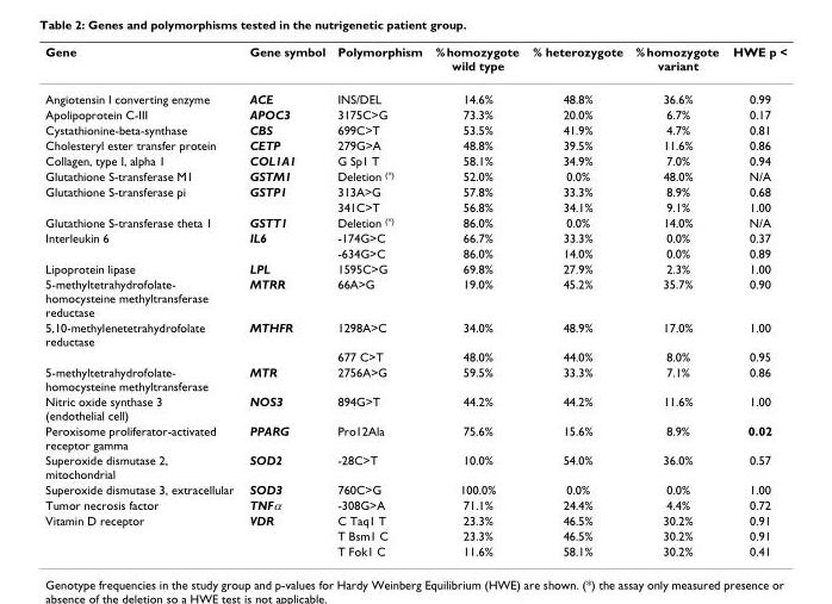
<table><thead><tr><td>Gene</td><td>Gene symbol</td><td>Polymorphism</td><td>% homozygote wild type</td><td>% heterozygote</td><td>% homozygote variant</td><td>HWE p &lt;</td></tr></thead><tbody><tr><td>Angiotensin I converting enzyme</td><td>ACE</td><td>INS/DEL</td><td>14.6%</td><td>48.8%</td><td>36.6%</td><td>0.99</td></tr><tr><td>Apolipoprotein C-III</td><td>APOC3</td><td>3175C&gt;G</td><td>73.3%</td><td>20.0%</td><td>6.7%</td><td>0.17</td></tr><tr><td>Cystathionine-beta-synthase</td><td>CBS</td><td>699C&gt;T</td><td>53.5%</td><td>41.9%</td><td>4.7%</td><td>0.81</td></tr><tr><td>Cholesteryl ester transfer protein</td><td>CETP</td><td>279G&gt;A</td><td>48.8%</td><td>39.5%</td><td>11.6%</td><td>0.86</td></tr><tr><td>Collagen, type I, alpha 1</td><td>COL1A1</td><td>G Sp1 T</td><td>58.1%</td><td>34.9%</td><td>7.0%</td><td>0.94</td></tr><tr><td>Glutathione S-transferase M1</td><td>GSTM1</td><td>Deletion <sup>(*)</sup></td><td>52.0%</td><td>0.0%</td><td>48.0%</td><td>N/A</td></tr><tr><td rowspan="2">Glutathione S-transferase pi</td><td>GSTP1</td><td>313A&gt;G</td><td>57.8%</td><td>33.3%</td><td>8.9%</td><td>0.68</td></tr><tr><td></td><td>341C&gt;T</td><td>56.8%</td><td>34.1%</td><td>9.1%</td><td>1.00</td></tr><tr><td>Glutathione S-transferase theta 1</td><td>GSTT1</td><td>Deletion <sup>(*)</sup></td><td>86.0%</td><td>0.0%</td><td>14.0%</td><td>N/A</td></tr><tr><td rowspan="2">Interleukin 6</td><td>IL6</td><td>-174G&gt;C</td><td>66.7%</td><td>33.3%</td><td>0.0%</td><td>0.37</td></tr><tr><td></td><td>-634G&gt;C</td><td>86.0%</td><td>14.0%</td><td>0.0%</td><td>0.89</td></tr><tr><td>Lipoprotein lipase</td><td>LPL</td><td>1595C&gt;G</td><td>69.8%</td><td>27.9%</td><td>2.3%</td><td>1.00</td></tr><tr><td>5-methyltetrahydrofolate- homocysteine methyltransferase reductase</td><td>MTRR</td><td>66A&gt;G</td><td>19.0%</td><td>45.2%</td><td>35.7%</td><td>0.90</td></tr><tr><td rowspan="2">5,10-methylenetetrahydrofolate reductase</td><td>MTHFR</td><td>1298A&gt;C</td><td>34.0%</td><td>48.9%</td><td>17.0%</td><td>1.00</td></tr><tr><td></td><td>677 C&gt;T</td><td>48.0%</td><td>44.0%</td><td>8.0%</td><td>0.95</td></tr><tr><td>5-methyltetrahydrofolate- homocysteine methyltransferase</td><td>MTR</td><td>2756A&gt;G</td><td>59.5%</td><td>33.3%</td><td>7.1%</td><td>0.86</td></tr><tr><td>Nitric oxide synthase 3 (endothelial cell)</td><td>NOS3</td><td>894G&gt;T</td><td>44.2%</td><td>44.2%</td><td>11.6%</td><td>1.00</td></tr><tr><td>Peroxisome proliferator-activated receptor gamma</td><td>PPARG</td><td>Pro12Ala</td><td>75.6%</td><td>15.6%</td><td>8.9%</td><td>0.02</td></tr><tr><td>Superoxide dismutase 2, mitochondrial</td><td>SOD2</td><td>-28C&gt;T</td><td>10.0%</td><td>54.0%</td><td>36.0%</td><td>0.57</td></tr><tr><td>Superoxide dismutase 3, extracellular</td><td>SOD3</td><td>760C&gt;G</td><td>100.0%</td><td>0.0%</td><td>0.0%</td><td>1.00</td></tr><tr><td>Tumor necrosis factor</td><td>TNFα</td><td>-308G&gt;A</td><td>71.1%</td><td>24.4%</td><td>4.4%</td><td>0.72</td></tr><tr><td rowspan="3">Vitamin D receptor</td><td>VDR</td><td>C Taq1 T</td><td>23.3%</td><td>46.5%</td><td>30.2%</td><td>0.91</td></tr><tr><td></td><td>T Bsm1 C</td><td>23.3%</td><td>46.5%</td><td>30.2%</td><td>0.91</td></tr><tr><td></td><td>T Fok1 C</td><td>11.6%</td><td>58.1%</td><td>30.2%</td><td>0.41</td></tr></tbody></table>